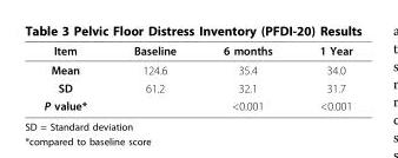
<table><thead><tr><td>Item</td><td>Baseline</td><td>6 months</td><td>1 Year</td></tr></thead><tbody><tr><td>Mean</td><td>124.6</td><td>35.4</td><td>34.0</td></tr><tr><td>SD</td><td>61.2</td><td>32.1</td><td>31.7</td></tr><tr><td>P value*</td><td></td><td>&lt;0.001</td><td>&lt;0.001</td></tr></tbody></table>